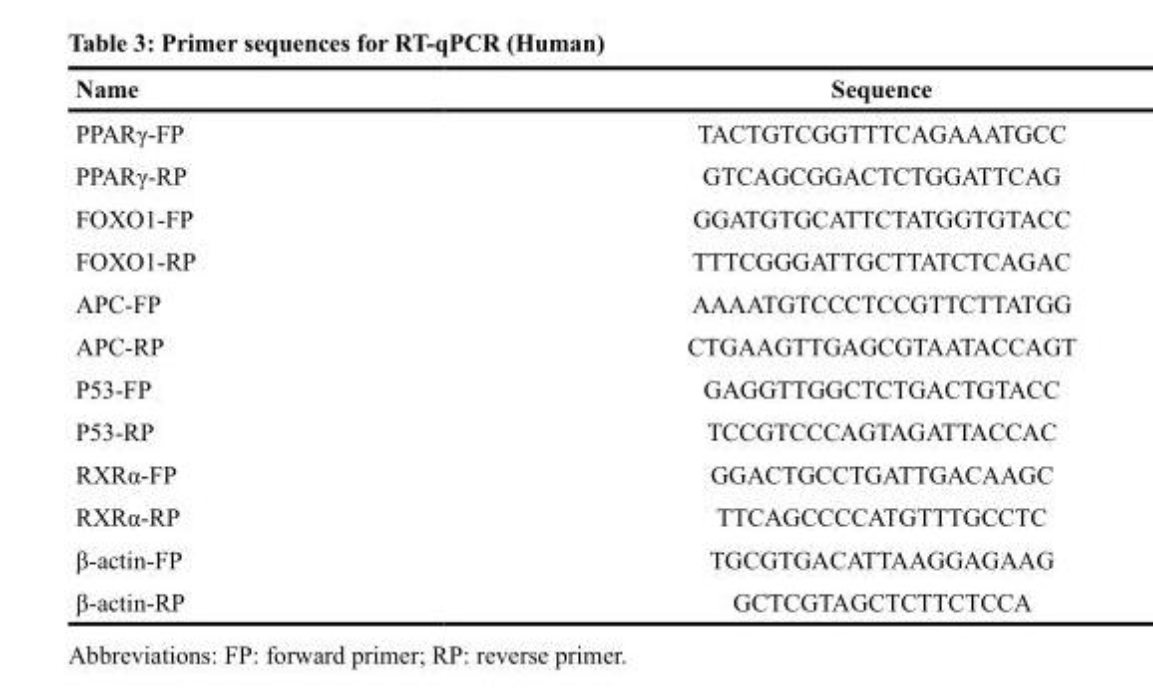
<table><thead><tr><td>Name</td><td>Sequence</td></tr></thead><tbody><tr><td>PPARγ-FP</td><td>TACTGTCGGTTTCAGAAATGCC</td></tr><tr><td>PPARγ-RP</td><td>GTCAGCGGACTCTGGATTCAG</td></tr><tr><td>FOXO1-FP</td><td>GGATGTGCATTCTATGGTGTACC</td></tr><tr><td>FOXO1-RP</td><td>TTTCGGGATTGCTTATCTCAGAC</td></tr><tr><td>APC-FP</td><td>AAAATGTCCCTCCGTTCTTATGG</td></tr><tr><td>APC-RP</td><td>CTGAAGTTGAGCGTAATACCAGT</td></tr><tr><td>P53-FP</td><td>GAGGTTGGCTCTGACTGTACC</td></tr><tr><td>P53-RP</td><td>TCCGTCCCAGTAGATTACCAC</td></tr><tr><td>RXRα-FP</td><td>GGACTGCCTGATTGACAAGC</td></tr><tr><td>RXRα-RP</td><td>TTCAGCCCCATGTTTGCCTC</td></tr><tr><td>β-actin-FP</td><td>TGCGTGACATTAAGGAGAAG</td></tr><tr><td>β-actin-RP</td><td>GCTCGTAGCTCTTCTCCA</td></tr></tbody></table>